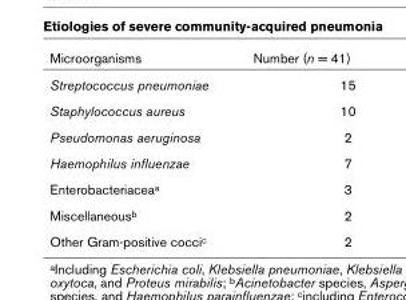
<table><thead><tr><td>Microorganisms</td><td>Number (n = 41)</td></tr></thead><tbody><tr><td>Streptococcus pneumoniae</td><td>15</td></tr><tr><td>Staphylococcus aureus</td><td>10</td></tr><tr><td>Pseudomonas aeruginosa</td><td>2</td></tr><tr><td>Haemophilus influenzae</td><td>7</td></tr><tr><td>Enterobacteriaceaa</td><td>3</td></tr><tr><td>Miscellaneousb</td><td>2</td></tr><tr><td>Other Gram-positive coccic</td><td>2</td></tr></tbody></table>